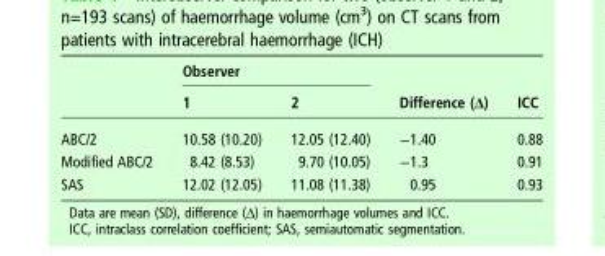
<table><thead><tr><td rowspan="2"></td><td colspan="2">Observer</td><td rowspan="2">Difference (Δ)</td><td rowspan="2">ICC</td></tr><tr><td>1</td><td>2</td></tr></thead><tbody><tr><td>ABC/2</td><td>10.58 (10.20)</td><td>12.05 (12.40)</td><td>−1.40</td><td>0.88</td></tr><tr><td>Modified ABC/2</td><td>8.42 (8.53)</td><td>9.70 (10.05)</td><td>−1.3</td><td>0.91</td></tr><tr><td>SAS</td><td>12.02 (12.05)</td><td>11.08 (11.38)</td><td>0.95</td><td>0.93</td></tr></tbody></table>